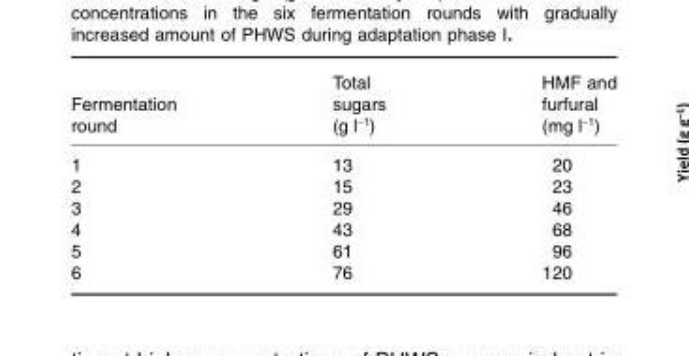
<table><thead><tr><td>Fermentation round</td><td>Total sugars (g l<sup>−1</sup>)</td><td>HMF and furfural (mg l<sup>−1</sup>)</td></tr></thead><tbody><tr><td>1</td><td>13</td><td>20</td></tr><tr><td>2</td><td>15</td><td>23</td></tr><tr><td>3</td><td>29</td><td>46</td></tr><tr><td>4</td><td>43</td><td>68</td></tr><tr><td>5</td><td>61</td><td>96</td></tr><tr><td>6</td><td>76</td><td>120</td></tr></tbody></table>